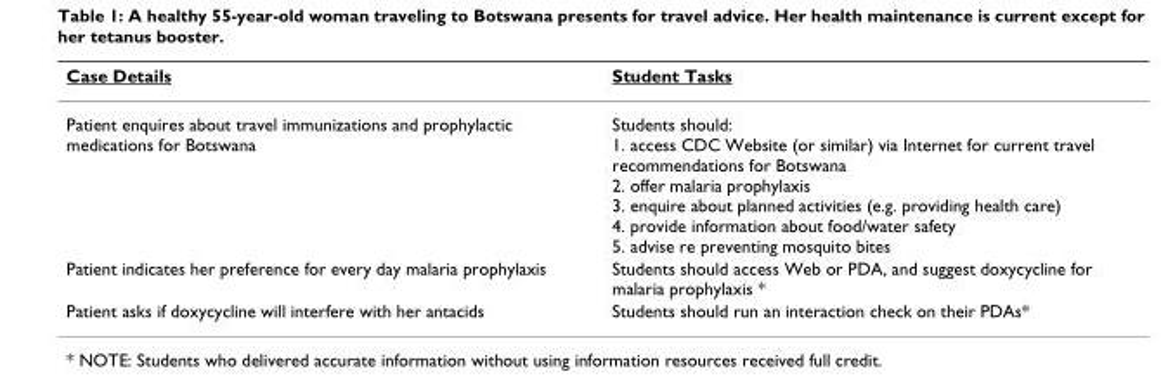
<table><thead><tr><td>Case Details</td><td>Student Tasks</td></tr></thead><tbody><tr><td>Patient enquires about travel immunizations and prophylactic medications for Botswana</td><td>Students should: 1. access CDC Website (or similar) via Internet for current travel recommendations for Botswana 2. offer malaria prophylaxis 3. enquire about planned activities (e.g. providing health care) 4. provide information about food/water safety 5. advise re preventing mosquito bites</td></tr><tr><td>Patient indicates her preference for every day malaria prophylaxis</td><td>Students should access Web or PDA, and suggest doxycycline for malaria prophylaxis *</td></tr><tr><td>Patient asks if doxycycline will interfere with her antacids</td><td>Students should run an interaction check on their PDAs*</td></tr></tbody></table>